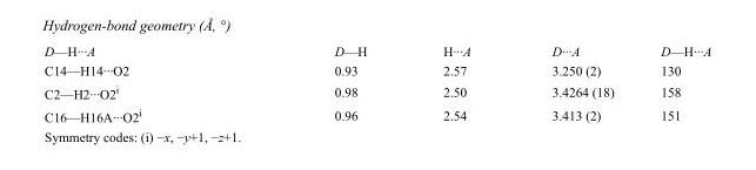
<table><tbody><tr><td>D—H···A</td><td>D—H</td><td>H···A</td><td>D···A</td><td>D—H···A</td></tr><tr><td>C14—H14···O2</td><td>0.93</td><td>2.57</td><td>3.250 (2)</td><td>130</td></tr><tr><td>C2—H2···O2<sup>i</sup></td><td>0.98</td><td>2.50</td><td>3.4264 (18)</td><td>158</td></tr><tr><td>C16—H16A···O2<sup>i</sup></td><td>0.96</td><td>2.54</td><td>3.413 (2)</td><td>151</td></tr></tbody></table>